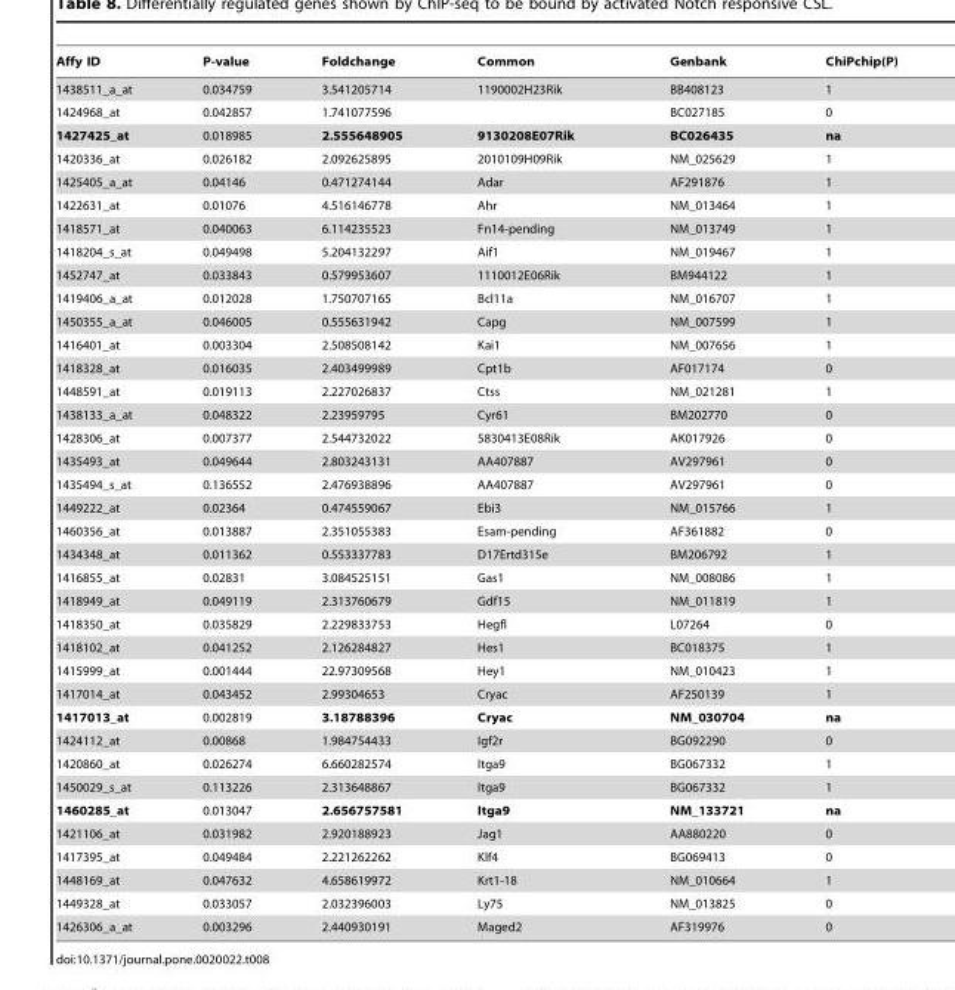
<table><thead><tr><td>Affy ID</td><td>P-value</td><td>Foldchange</td><td>Common</td><td>Genbank</td><td>ChiPchip(P)</td></tr></thead><tbody><tr><td>1438511_a_at</td><td>0.034759</td><td>3.541205714</td><td>1190002H23Rik</td><td>BB408123</td><td>1</td></tr><tr><td>1424968_at</td><td>0.042857</td><td>1.741077596</td><td></td><td>BC027185</td><td>0</td></tr><tr><td>1427425_at</td><td>0.018985</td><td>2.555648905</td><td>9130208E07Rik</td><td>BC026435</td><td>na</td></tr><tr><td>1420336_at</td><td>0.026182</td><td>2.092625895</td><td>2010109H09Rik</td><td>NM_025629</td><td>1</td></tr><tr><td>1425405_a_at</td><td>0.04146</td><td>0.471274144</td><td>Adar</td><td>AF291876</td><td>1</td></tr><tr><td>1422631_at</td><td>0.01076</td><td>4.516146778</td><td>Ahr</td><td>NM_013464</td><td>1</td></tr><tr><td>1418571_at</td><td>0.040063</td><td>6.114235523</td><td>Fn14-pending</td><td>NM_013749</td><td>1</td></tr><tr><td>1418204_s_at</td><td>0.049498</td><td>5.204132297</td><td>Aif1</td><td>NM_019467</td><td>1</td></tr><tr><td>1452747_at</td><td>0.033843</td><td>0.579953607</td><td>1110012E06Rik</td><td>BM944122</td><td>1</td></tr><tr><td>1419406_a_at</td><td>0.012028</td><td>1.750707165</td><td>Bcl11a</td><td>NM_016707</td><td>1</td></tr><tr><td>1450355_a_at</td><td>0.046005</td><td>0.555631942</td><td>Capg</td><td>NM_007599</td><td>1</td></tr><tr><td>1416401_at</td><td>0.003304</td><td>2.508508142</td><td>Kai1</td><td>NM_007656</td><td>1</td></tr><tr><td>1418328_at</td><td>0.016035</td><td>2.403499989</td><td>Cpt1b</td><td>AF017174</td><td>0</td></tr><tr><td>1448591_at</td><td>0.019113</td><td>2.227026837</td><td>Ctss</td><td>NM_021281</td><td>1</td></tr><tr><td>1438133_a_at</td><td>0.048322</td><td>2.23959795</td><td>Cyr61</td><td>BM202770</td><td>0</td></tr><tr><td>1428306_at</td><td>0.007377</td><td>2.544732022</td><td>5830413E08Rik</td><td>AK017926</td><td>0</td></tr><tr><td>1435493_at</td><td>0.049644</td><td>2.803243131</td><td>AA407887</td><td>AV297961</td><td>0</td></tr><tr><td>1435494_s_at</td><td>0.136552</td><td>2.476938896</td><td>AA407887</td><td>AV297961</td><td>0</td></tr><tr><td>1449222_at</td><td>0.02364</td><td>0.474559067</td><td>Ebi3</td><td>NM_015766</td><td>1</td></tr><tr><td>1460356_at</td><td>0.013887</td><td>2.351055383</td><td>Esam-pending</td><td>AF361882</td><td>0</td></tr><tr><td>1434348_at</td><td>0.011362</td><td>0.553337783</td><td>D17Ertd315e</td><td>BM206792</td><td>1</td></tr><tr><td>1416855_at</td><td>0.02831</td><td>3.084525151</td><td>Gas1</td><td>NM_008086</td><td>1</td></tr><tr><td>1418949_at</td><td>0.049119</td><td>2.313760679</td><td>Gdf15</td><td>NM_011819</td><td>1</td></tr><tr><td>1418350_at</td><td>0.035829</td><td>2.229833753</td><td>Hegfl</td><td>L07264</td><td>0</td></tr><tr><td>1418102_at</td><td>0.041252</td><td>2.126284827</td><td>Hes1</td><td>BC018375</td><td>1</td></tr><tr><td>1415999_at</td><td>0.001444</td><td>22.97309568</td><td>Hey1</td><td>NM_010423</td><td>1</td></tr><tr><td>1417014_at</td><td>0.043452</td><td>2.99304653</td><td>Cryac</td><td>AF250139</td><td>1</td></tr><tr><td>1417013_at</td><td>0.002819</td><td>3.18788396</td><td>Cryac</td><td>NM_030704</td><td>na</td></tr><tr><td>1424112_at</td><td>0.00868</td><td>1.984754433</td><td>Igf2r</td><td>BG092290</td><td>0</td></tr><tr><td>1420860_at</td><td>0.026274</td><td>6.660282574</td><td>Itga9</td><td>BG067332</td><td>1</td></tr><tr><td>1450029_s_at</td><td>0.113226</td><td>2.313648867</td><td>Itga9</td><td>BG067332</td><td>1</td></tr><tr><td>1460285_at</td><td>0.013047</td><td>2.656757581</td><td>Itga9</td><td>NM_133721</td><td>na</td></tr><tr><td>1421106_at</td><td>0.031982</td><td>2.920188923</td><td>Jag1</td><td>AA880220</td><td>0</td></tr><tr><td>1417395_at</td><td>0.049484</td><td>2.221262262</td><td>Klf4</td><td>BG069413</td><td>0</td></tr><tr><td>1448169_at</td><td>0.047632</td><td>4.658619972</td><td>Krt1-18</td><td>NM_010664</td><td>1</td></tr><tr><td>1449328_at</td><td>0.033057</td><td>2.032396003</td><td>Ly75</td><td>NM_013825</td><td>0</td></tr><tr><td>1426306_a_at</td><td>0.003296</td><td>2.440930191</td><td>Maged2</td><td>AF319976</td><td>0</td></tr></tbody></table>